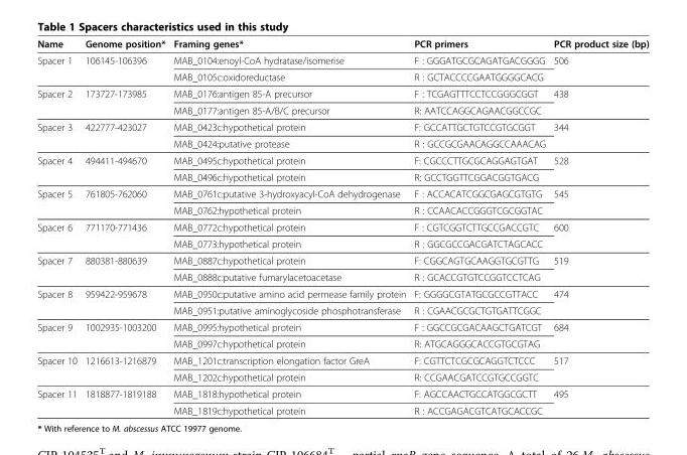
<table><thead><tr><td>Name</td><td>Genome position*</td><td>Framing genes*</td><td>PCR primers</td><td>PCR product size (bp)</td></tr></thead><tbody><tr><td rowspan="2">Spacer 1</td><td rowspan="2">106145-106396</td><td>MAB_0104:enoyl-CoA hydratase/isomerise</td><td>F : GGGATGCGCAGATGACGGGG</td><td rowspan="2">506</td></tr><tr><td>MAB_0105c:oxidoreductase</td><td>R : GCTACCCCGAATGGGGCACG</td></tr><tr><td rowspan="2">Spacer 2</td><td rowspan="2">173727-173985</td><td>MAB_0176:antigen 85-A precursor</td><td>F : TCGAGTTTCCTCCGGGCGGT</td><td rowspan="2">438</td></tr><tr><td>MAB_0177:antigen 85-A/B/C precursor</td><td>R: AATCCAGGCAGAACGGCCGC</td></tr><tr><td rowspan="2">Spacer 3</td><td rowspan="2">422777-423027</td><td>MAB_0423c:hypothetical protein</td><td>F: GCCATTGCTGTCCGTGCGGT</td><td rowspan="2">344</td></tr><tr><td>MAB_0424:putative protease</td><td>R : GCCGCGAACAGGCCAAACAG</td></tr><tr><td rowspan="2">Spacer 4</td><td rowspan="2">494411-494670</td><td>MAB_0495c:hypothetical protein</td><td>F: CGCCCTTGCGCAGGAGTGAT</td><td rowspan="2">528</td></tr><tr><td>MAB_0496c:hypothetical protein</td><td>R: GCCTGGTTCGGACGGTGACG</td></tr><tr><td rowspan="2">Spacer 5</td><td rowspan="2">761805-762060</td><td>MAB_0761c:putative 3-hydroxyacyl-CoA dehydrogenase</td><td>F : ACCACATCGGCGAGCGTGTG</td><td rowspan="2">545</td></tr><tr><td>MAB_0762:hypothetical protein</td><td>R : CCAACACCGGGTCGCGGTAC</td></tr><tr><td rowspan="2">Spacer 6</td><td rowspan="2">771170-771436</td><td>MAB_0772c:hypothetical protein</td><td>F : CGTCGGTCTTGCCGACCGTC</td><td rowspan="2">600</td></tr><tr><td>MAB_0773:hypothetical protein</td><td>R : GGCGCCGACGATCTAGCACC</td></tr><tr><td rowspan="2">Spacer 7</td><td rowspan="2">880381-880639</td><td>MAB_0887c:hypothetical protein</td><td>F: CGGCAGTGCAAGGTGCGTTG</td><td rowspan="2">519</td></tr><tr><td>MAB_0888c:putative fumarylacetoacetase</td><td>R : GCACCGTGTCCGGTCCTCAG</td></tr><tr><td rowspan="2">Spacer 8</td><td rowspan="2">959422-959678</td><td>MAB_0950c:putative amino acid permease family protein</td><td>F: GGGGCGTATGCGCCGTTACC</td><td rowspan="2">474</td></tr><tr><td>MAB_0951:putative aminoglycoside phosphotransferase</td><td>R : CGAACGCGCTGTGATTCGGC</td></tr><tr><td rowspan="2">Spacer 9</td><td rowspan="2">1002935-1003200</td><td>MAB_0995:hypothetical protein</td><td>F : GGCCGCGACAAGCTGATCGT</td><td rowspan="2">684</td></tr><tr><td>MAB_0997c:hypothetical protein</td><td>R: ATGCAGGGCACCGTGCGTAG</td></tr><tr><td rowspan="2">Spacer 10</td><td rowspan="2">1216613-1216879</td><td>MAB_1201c:transcription elongation factor GreA</td><td>F: CGTTCTCGCGCAGGTCTCCC</td><td rowspan="2">517</td></tr><tr><td>MAB_1202c:hypothetical protein</td><td>R: CCGAACGATCCGTGCCGGTC</td></tr><tr><td rowspan="2">Spacer 11</td><td rowspan="2">1818877-1819188</td><td>MAB_1818:hypothetical protein</td><td>F: AGCCAACTGCCATGGCGCTT</td><td rowspan="2">495</td></tr><tr><td>MAB_1819c:hypothetical protein</td><td>R : ACCGAGACGTCATGCACCGC</td></tr></tbody></table>